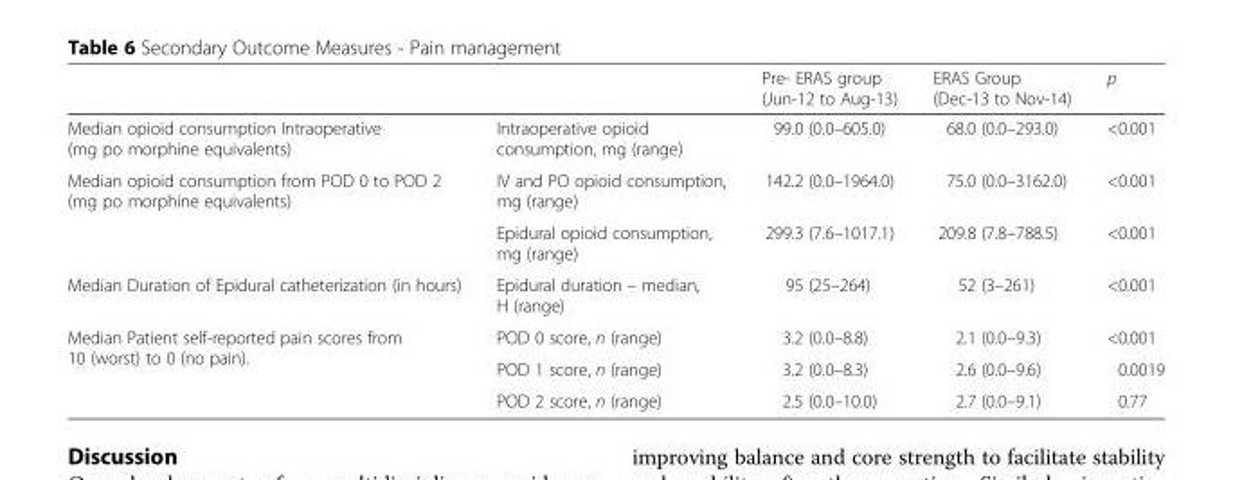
<table><thead><tr><td></td><td></td><td>Pre- ERAS group (Jun-12 to Aug-13)</td><td>ERAS Group (Dec-13 to Nov-14)</td><td>p</td></tr></thead><tbody><tr><td>Median opioid consumption Intraoperative (mg po morphine equivalents)</td><td>Intraoperative opioid consumption, mg (range)</td><td>99.0 (0.0–605.0)</td><td>68.0 (0.0–293.0)</td><td>&lt;0.001</td></tr><tr><td rowspan="2">Median opioid consumption from POD 0 to POD 2 (mg po morphine equivalents)</td><td>IV and PO opioid consumption, mg (range)</td><td>142.2 (0.0–1964.0)</td><td>75.0 (0.0–3162.0)</td><td>&lt;0.001</td></tr><tr><td>Epidural opioid consumption, mg (range)</td><td>299.3 (7.6–1017.1)</td><td>209.8 (7.8–788.5)</td><td>&lt;0.001</td></tr><tr><td>Median Duration of Epidural catheterization (in hours)</td><td>Epidural duration – median, H (range)</td><td>95 (25–264)</td><td>52 (3–261)</td><td>&lt;0.001</td></tr><tr><td rowspan="3">Median Patient self-reported pain scores from 10 (worst) to 0 (no pain).</td><td>POD 0 score, n (range)</td><td>3.2 (0.0–8.8)</td><td>2.1 (0.0–9.3)</td><td>&lt;0.001</td></tr><tr><td>POD 1 score, n (range)</td><td>3.2 (0.0–8.3)</td><td>2.6 (0.0–9.6)</td><td>0.0019</td></tr><tr><td>POD 2 score, n (range)</td><td>2.5 (0.0–10.0)</td><td>2.7 (0.0–9.1)</td><td>0.77</td></tr></tbody></table>